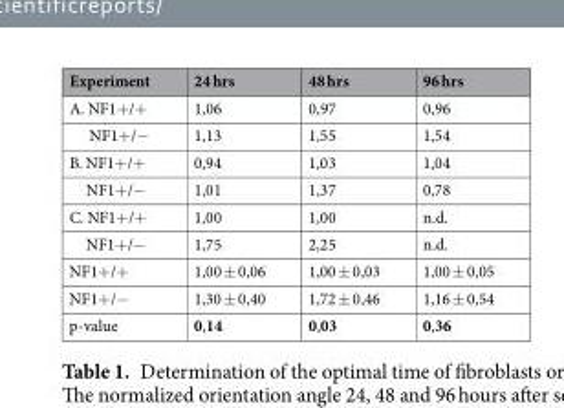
<table><thead><tr><td>Experiment</td><td>24 hrs</td><td>48 hrs</td><td>96 hrs</td></tr></thead><tbody><tr><td>A. NF1+/+</td><td>1,06</td><td>0,97</td><td>0,96</td></tr><tr><td>NF1+/−</td><td>1,13</td><td>1,55</td><td>1,54</td></tr><tr><td>B. NF1+/+</td><td>0,94</td><td>1,03</td><td>1,04</td></tr><tr><td>NF1+/−</td><td>1,01</td><td>1,37</td><td>0,78</td></tr><tr><td>C. NF1+/+</td><td>1,00</td><td>1,00</td><td>n.d.</td></tr><tr><td>NF1+/−</td><td>1,75</td><td>2,25</td><td>n.d.</td></tr><tr><td>NF1+/+</td><td>1,00 ± 0,06</td><td>1,00 ± 0,03</td><td>1,00 ± 0,05</td></tr><tr><td>NF1+/−</td><td>1,30 ± 0,40</td><td>1,72 ± 0,46</td><td>1,16 ± 0,54</td></tr><tr><td>p-value</td><td>0,14</td><td>0,03</td><td>0,36</td></tr></tbody></table>